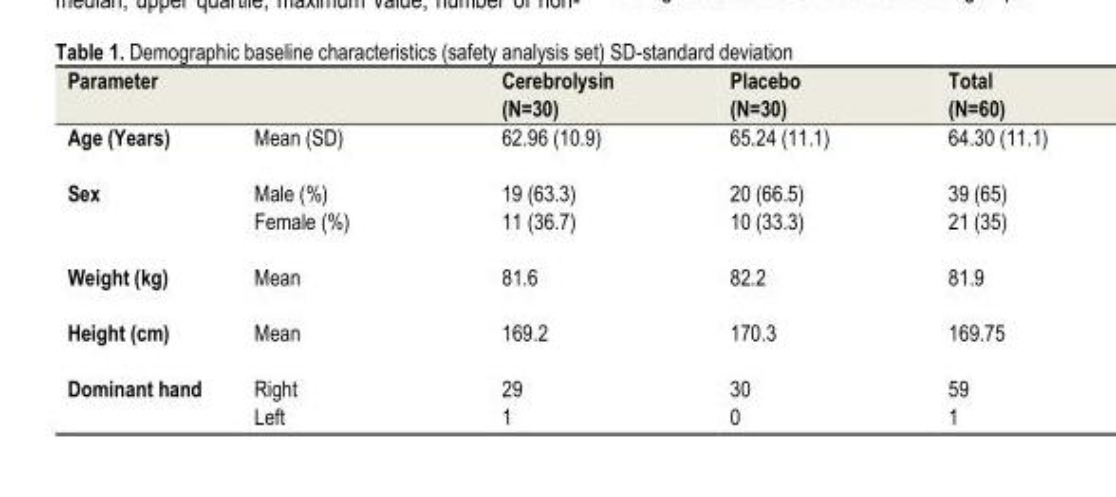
<table><thead><tr><td>Parameter</td><td></td><td>Cerebrolysin (N=30)</td><td>Placebo (N=30)</td><td>Total (N=60)</td></tr></thead><tbody><tr><td>Age (Years)</td><td>Mean (SD)</td><td>62.96 (10.9)</td><td>65.24 (11.1)</td><td>64.30 (11.1)</td></tr><tr><td rowspan="2">Sex</td><td>Male (%)</td><td>19 (63.3)</td><td>20 (66.5)</td><td>39 (65)</td></tr><tr><td>Female (%)</td><td>11 (36.7)</td><td>10 (33.3)</td><td>21 (35)</td></tr><tr><td>Weight (kg)</td><td>Mean</td><td>81.6</td><td>82.2</td><td>81.9</td></tr><tr><td>Height (cm)</td><td>Mean</td><td>169.2</td><td>170.3</td><td>169.75</td></tr><tr><td rowspan="2">Dominant hand</td><td>Right</td><td>29</td><td>30</td><td>59</td></tr><tr><td>Left</td><td>1</td><td>0</td><td>1</td></tr></tbody></table>